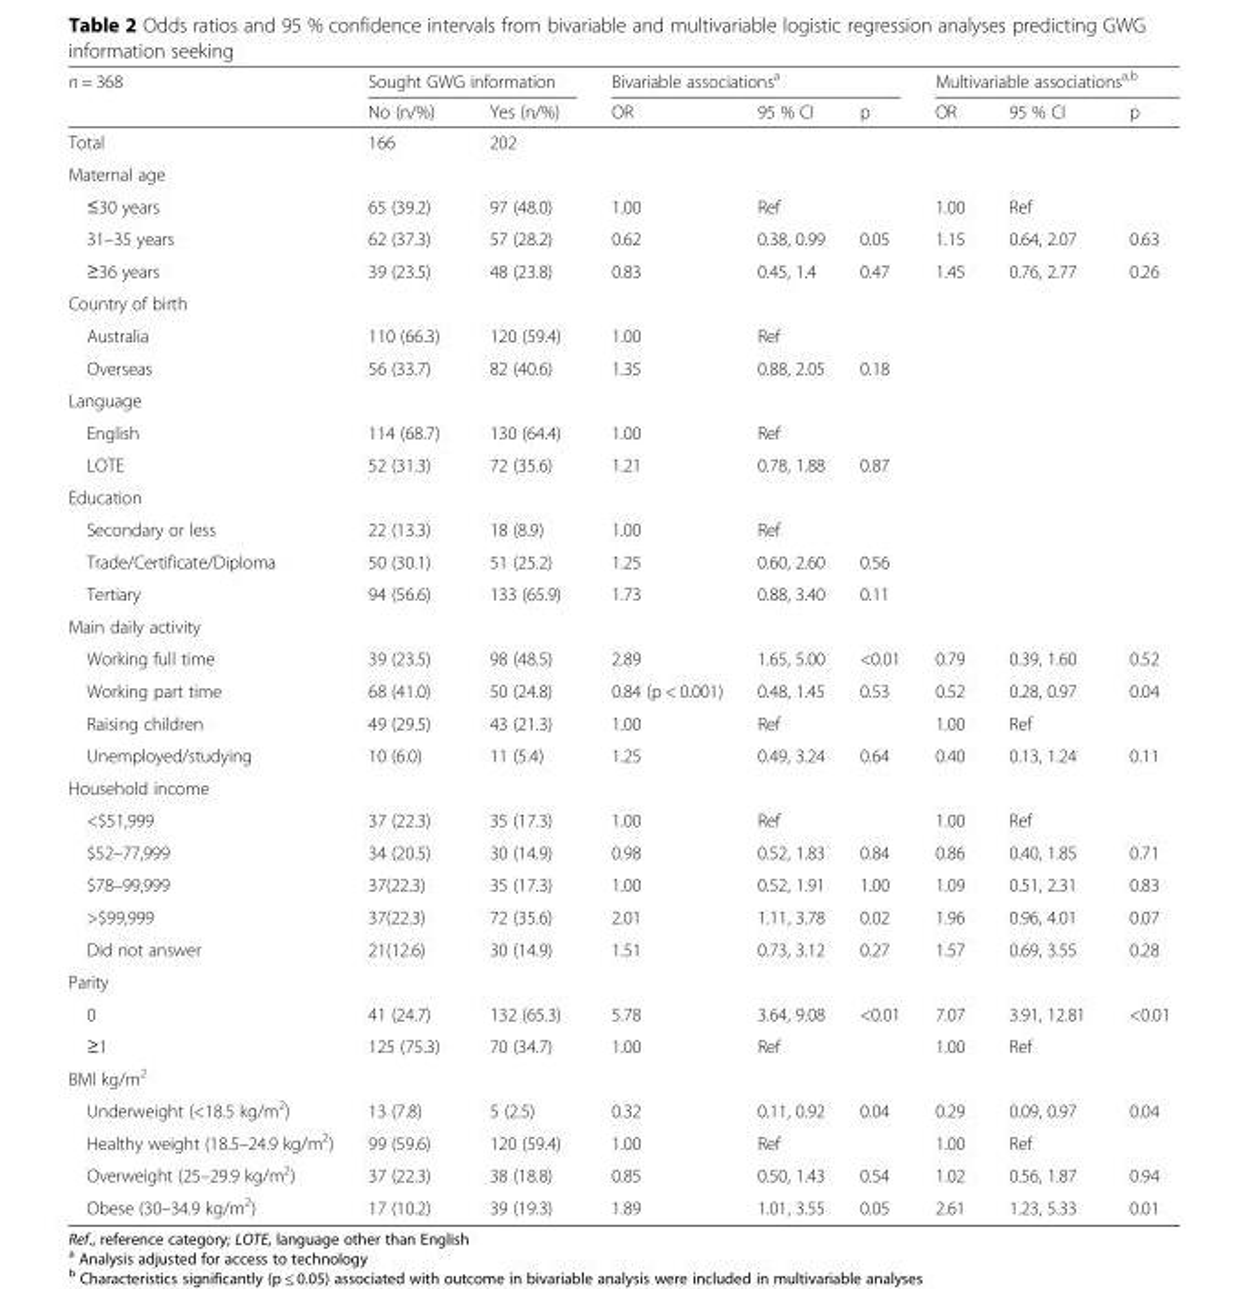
<table><thead><tr><td rowspan="2">n = 368</td><td colspan="2">Sought GWG information</td><td colspan="3">Bivariable associations<sup>a</sup></td><td colspan="3">Multivariable associations<sup>a,b</sup></td></tr><tr><td>No (n/%)</td><td>Yes (n/%)</td><td>OR</td><td>95 % CI</td><td>p</td><td>OR</td><td>95 % CI</td><td>p</td></tr></thead><tbody><tr><td>Total</td><td>166</td><td>202</td><td></td><td></td><td></td><td></td><td></td><td></td></tr><tr><td colspan="9">Maternal age</td></tr><tr><td>≤30 years</td><td>65 (39.2)</td><td>97 (48.0)</td><td>1.00</td><td>Ref</td><td></td><td>1.00</td><td>Ref</td><td></td></tr><tr><td>31–35 years</td><td>62 (37.3)</td><td>57 (28.2)</td><td>0.62</td><td>0.38, 0.99</td><td>0.05</td><td>1.15</td><td>0.64, 2.07</td><td>0.63</td></tr><tr><td>≥36 years</td><td>39 (23.5)</td><td>48 (23.8)</td><td>0.83</td><td>0.45, 1.4</td><td>0.47</td><td>1.45</td><td>0.76, 2.77</td><td>0.26</td></tr><tr><td colspan="9">Country of birth</td></tr><tr><td>Australia</td><td>110 (66.3)</td><td>120 (59.4)</td><td>1.00</td><td>Ref</td><td></td><td></td><td></td><td></td></tr><tr><td>Overseas</td><td>56 (33.7)</td><td>82 (40.6)</td><td>1.35</td><td>0.88, 2.05</td><td>0.18</td><td></td><td></td><td></td></tr><tr><td colspan="9">Language</td></tr><tr><td>English</td><td>114 (68.7)</td><td>130 (64.4)</td><td>1.00</td><td>Ref</td><td></td><td></td><td></td><td></td></tr><tr><td>LOTE</td><td>52 (31.3)</td><td>72 (35.6)</td><td>1.21</td><td>0.78, 1.88</td><td>0.87</td><td></td><td></td><td></td></tr><tr><td colspan="9">Education</td></tr><tr><td>Secondary or less</td><td>22 (13.3)</td><td>18 (8.9)</td><td>1.00</td><td>Ref</td><td></td><td></td><td></td><td></td></tr><tr><td>Trade/Certificate/Diploma</td><td>50 (30.1)</td><td>51 (25.2)</td><td>1.25</td><td>0.60, 2.60</td><td>0.56</td><td></td><td></td><td></td></tr><tr><td>Tertiary</td><td>94 (56.6)</td><td>133 (65.9)</td><td>1.73</td><td>0.88, 3.40</td><td>0.11</td><td></td><td></td><td></td></tr><tr><td colspan="9">Main daily activity</td></tr><tr><td>Working full time</td><td>39 (23.5)</td><td>98 (48.5)</td><td>2.89</td><td>1.65, 5.00</td><td>&lt;0.01</td><td>0.79</td><td>0.39, 1.60</td><td>0.52</td></tr><tr><td>Working part time</td><td>68 (41.0)</td><td>50 (24.8)</td><td>0.84 (p &lt; 0.001)</td><td>0.48, 1.45</td><td>0.53</td><td>0.52</td><td>0.28, 0.97</td><td>0.04</td></tr><tr><td>Raising children</td><td>49 (29.5)</td><td>43 (21.3)</td><td>1.00</td><td>Ref</td><td></td><td>1.00</td><td>Ref</td><td></td></tr><tr><td>Unemployed/studying</td><td>10 (6.0)</td><td>11 (5.4)</td><td>1.25</td><td>0.49, 3.24</td><td>0.64</td><td>0.40</td><td>0.13, 1.24</td><td>0.11</td></tr><tr><td colspan="9">Household income</td></tr><tr><td>&lt;$51,999</td><td>37 (22.3)</td><td>35 (17.3)</td><td>1.00</td><td>Ref</td><td></td><td>1.00</td><td>Ref</td><td></td></tr><tr><td>$52–77,999</td><td>34 (20.5)</td><td>30 (14.9)</td><td>0.98</td><td>0.52, 1.83</td><td>0.84</td><td>0.86</td><td>0.40, 1.85</td><td>0.71</td></tr><tr><td>$78–99,999</td><td>37(22.3)</td><td>35 (17.3)</td><td>1.00</td><td>0.52, 1.91</td><td>1.00</td><td>1.09</td><td>0.51, 2.31</td><td>0.83</td></tr><tr><td>&gt;$99,999</td><td>37(22.3)</td><td>72 (35.6)</td><td>2.01</td><td>1.11, 3.78</td><td>0.02</td><td>1.96</td><td>0.96, 4.01</td><td>0.07</td></tr><tr><td>Did not answer</td><td>21(12.6)</td><td>30 (14.9)</td><td>1.51</td><td>0.73, 3.12</td><td>0.27</td><td>1.57</td><td>0.69, 3.55</td><td>0.28</td></tr><tr><td colspan="9">Parity</td></tr><tr><td>0</td><td>41 (24.7)</td><td>132 (65.3)</td><td>5.78</td><td>3.64, 9.08</td><td>&lt;0.01</td><td>7.07</td><td>3.91, 12.81</td><td>&lt;0.01</td></tr><tr><td>≥1</td><td>125 (75.3)</td><td>70 (34.7)</td><td>1.00</td><td>Ref</td><td></td><td>1.00</td><td>Ref</td><td></td></tr><tr><td colspan="9">BMI kg/m<sup>2</sup></td></tr><tr><td>Underweight (&lt;18.5 kg/m<sup>2</sup>)</td><td>13 (7.8)</td><td>5 (2.5)</td><td>0.32</td><td>0.11, 0.92</td><td>0.04</td><td>0.29</td><td>0.09, 0.97</td><td>0.04</td></tr><tr><td>Healthy weight (18.5–24.9 kg/m<sup>2</sup>)</td><td>99 (59.6)</td><td>120 (59.4)</td><td>1.00</td><td>Ref</td><td></td><td>1.00</td><td>Ref</td><td></td></tr><tr><td>Overweight (25–29.9 kg/m<sup>2</sup>)</td><td>37 (22.3)</td><td>38 (18.8)</td><td>0.85</td><td>0.50, 1.43</td><td>0.54</td><td>1.02</td><td>0.56, 1.87</td><td>0.94</td></tr><tr><td>Obese (30–34.9 kg/m<sup>2</sup>)</td><td>17 (10.2)</td><td>39 (19.3)</td><td>1.89</td><td>1.01, 3.55</td><td>0.05</td><td>2.61</td><td>1.23, 5.33</td><td>0.01</td></tr></tbody></table>